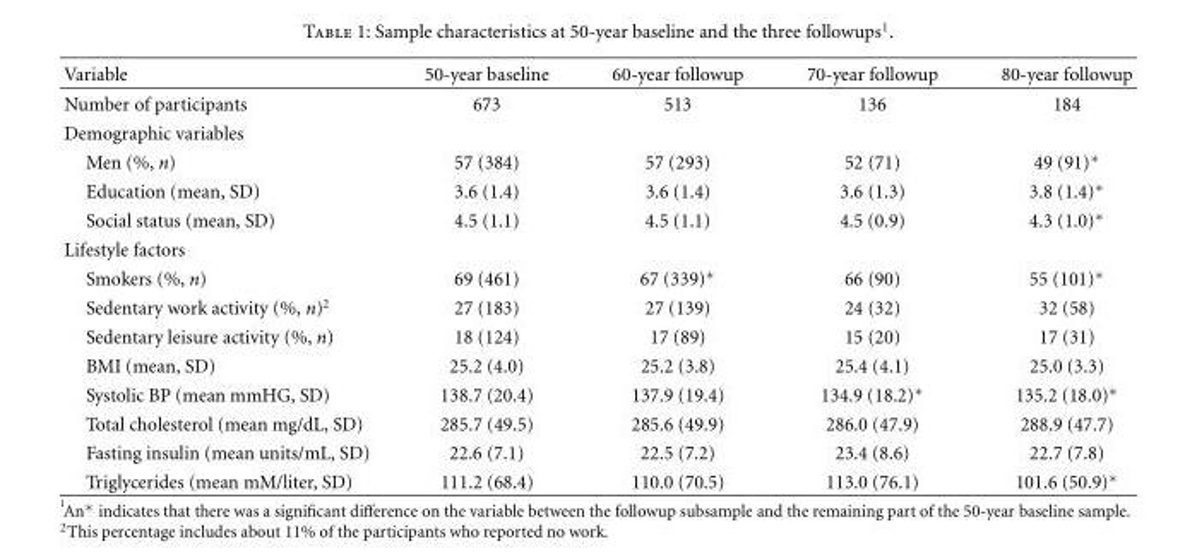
<table><thead><tr><td>Variable</td><td>50-year baseline</td><td>60-year followup</td><td>70-year followup</td><td>80-year followup</td></tr></thead><tbody><tr><td>Number of participants</td><td>673</td><td>513</td><td>136</td><td>184</td></tr><tr><td colspan="5">Demographic variables</td></tr><tr><td>Men (%, n)</td><td>57 (384)</td><td>57 (293)</td><td>52 (71)</td><td>49 (91)∗</td></tr><tr><td>Education (mean, SD)</td><td>3.6 (1.4)</td><td>3.6 (1.4)</td><td>3.6 (1.3)</td><td>3.8 (1.4)∗</td></tr><tr><td>Social status (mean, SD)</td><td>4.5 (1.1)</td><td>4.5 (1.1)</td><td>4.5 (0.9)</td><td>4.3 (1.0)∗</td></tr><tr><td colspan="5">Lifestyle factors</td></tr><tr><td>Smokers (%, n)</td><td>69 (461)</td><td>67 (339)∗</td><td>66 (90)</td><td>55 (101)∗</td></tr><tr><td>Sedentary work activity (%, n)<sup>2</sup></td><td>27 (183)</td><td>27 (139)</td><td>24 (32)</td><td>32 (58)</td></tr><tr><td>Sedentary leisure activity (%, n)</td><td>18 (124)</td><td>17 (89)</td><td>15 (20)</td><td>17 (31)</td></tr><tr><td>BMI (mean, SD)</td><td>25.2 (4.0)</td><td>25.2 (3.8)</td><td>25.4 (4.1)</td><td>25.0 (3.3)</td></tr><tr><td>Systolic BP (mean mmHG, SD)</td><td>138.7 (20.4)</td><td>137.9 (19.4)</td><td>134.9 (18.2)∗</td><td>135.2 (18.0)∗</td></tr><tr><td>Total cholesterol (mean mg/dL, SD)</td><td>285.7 (49.5)</td><td>285.6 (49.9)</td><td>286.0 (47.9)</td><td>288.9 (47.7)</td></tr><tr><td>Fasting insulin (mean units/mL, SD)</td><td>22.6 (7.1)</td><td>22.5 (7.2)</td><td>23.4 (8.6)</td><td>22.7 (7.8)</td></tr><tr><td>Triglycerides (mean mM/liter, SD)</td><td>111.2 (68.4)</td><td>110.0 (70.5)</td><td>113.0 (76.1)</td><td>101.6 (50.9)∗</td></tr></tbody></table>